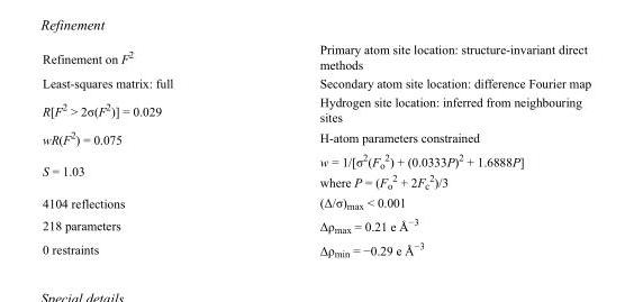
<table><tbody><tr><td>Refinement on F<sup>2</sup></td><td>Primary atom site location: structure-invariant direct methods</td></tr><tr><td>Least-squares matrix: full</td><td>Secondary atom site location: difference Fourier map</td></tr><tr><td>R[F<sup>2</sup> &gt; 2σ(F<sup>2</sup>)] = 0.029</td><td>Hydrogen site location: inferred from neighbouring sites</td></tr><tr><td>wR(F<sup>2</sup>) = 0.075</td><td>H-atom parameters constrained</td></tr><tr><td>S = 1.03</td><td>w = 1/[σ<sup>2</sup>(F<sub>o</sub> <sup>2</sup>) + (0.0333P)<sup>2</sup> + 1.6888P] where P = (F<sub>o</sub> <sup>2</sup> + 2F<sub>c</sub> <sup>2</sup>)/3</td></tr><tr><td>4104 reflections</td><td>(Δ/σ)<sub>max</sub> &lt; 0.001</td></tr><tr><td>218 parameters</td><td>Δρ<sub>max</sub> = 0.21 e Å<sup>−3</sup></td></tr><tr><td>0 restraints</td><td>Δρ<sub>min</sub> = −0.29 e Å<sup>−3</sup></td></tr></tbody></table>